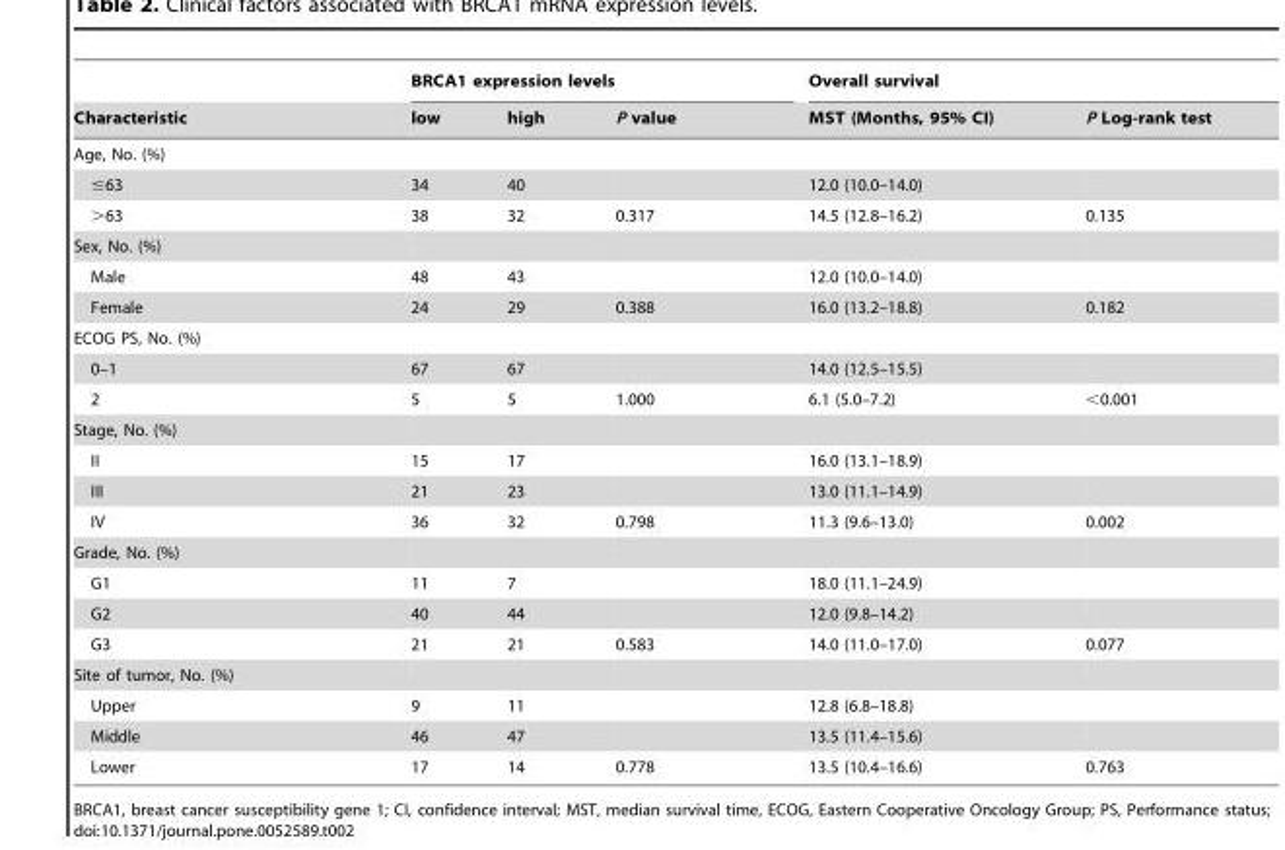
<table><thead><tr><td rowspan="2">Characteristic</td><td colspan="3">BRCA1 expression levels</td><td colspan="2">Overall survival</td></tr><tr><td>low</td><td>high</td><td>P value</td><td>MST (Months, 95% CI)</td><td>P Log-rank test</td></tr></thead><tbody><tr><td colspan="6">Age, No. (%)</td></tr><tr><td>≤63</td><td>34</td><td>40</td><td></td><td>12.0 (10.0–14.0)</td><td></td></tr><tr><td>&gt;63</td><td>38</td><td>32</td><td>0.317</td><td>14.5 (12.8–16.2)</td><td>0.135</td></tr><tr><td colspan="6">Sex, No. (%)</td></tr><tr><td>Male</td><td>48</td><td>43</td><td></td><td>12.0 (10.0–14.0)</td><td></td></tr><tr><td>Female</td><td>24</td><td>29</td><td>0.388</td><td>16.0 (13.2–18.8)</td><td>0.182</td></tr><tr><td colspan="6">ECOG PS, No. (%)</td></tr><tr><td>0–1</td><td>67</td><td>67</td><td></td><td>14.0 (12.5–15.5)</td><td></td></tr><tr><td>2</td><td>5</td><td>5</td><td>1.000</td><td>6.1 (5.0–7.2)</td><td>&lt;0.001</td></tr><tr><td colspan="6">Stage, No. (%)</td></tr><tr><td>II</td><td>15</td><td>17</td><td></td><td>16.0 (13.1–18.9)</td><td></td></tr><tr><td>III</td><td>21</td><td>23</td><td></td><td>13.0 (11.1–14.9)</td><td></td></tr><tr><td>IV</td><td>36</td><td>32</td><td>0.798</td><td>11.3 (9.6–13.0)</td><td>0.002</td></tr><tr><td colspan="6">Grade, No. (%)</td></tr><tr><td>G1</td><td>11</td><td>7</td><td></td><td>18.0 (11.1–24.9)</td><td></td></tr><tr><td>G2</td><td>40</td><td>44</td><td></td><td>12.0 (9.8–14.2)</td><td></td></tr><tr><td>G3</td><td>21</td><td>21</td><td>0.583</td><td>14.0 (11.0–17.0)</td><td>0.077</td></tr><tr><td colspan="6">Site of tumor, No. (%)</td></tr><tr><td>Upper</td><td>9</td><td>11</td><td></td><td>12.8 (6.8–18.8)</td><td></td></tr><tr><td>Middle</td><td>46</td><td>47</td><td></td><td>13.5 (11.4–15.6)</td><td></td></tr><tr><td>Lower</td><td>17</td><td>14</td><td>0.778</td><td>13.5 (10.4–16.6)</td><td>0.763</td></tr></tbody></table>